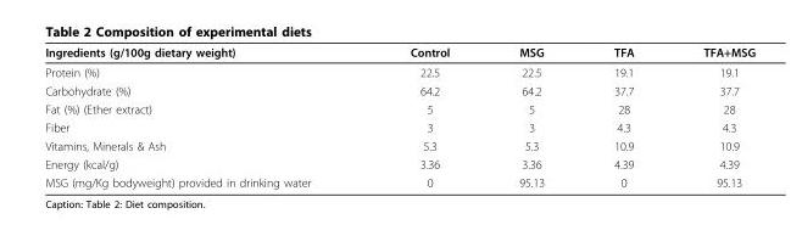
<table><thead><tr><td>Ingredients (g/100g dietary weight)</td><td>Control</td><td>MSG</td><td>TFA</td><td>TFA+MSG</td></tr></thead><tbody><tr><td>Protein (%)</td><td>22.5</td><td>22.5</td><td>19.1</td><td>19.1</td></tr><tr><td>Carbohydrate (%)</td><td>64.2</td><td>64.2</td><td>37.7</td><td>37.7</td></tr><tr><td>Fat (%) (Ether extract)</td><td>5</td><td>5</td><td>28</td><td>28</td></tr><tr><td>Fiber</td><td>3</td><td>3</td><td>4.3</td><td>4.3</td></tr><tr><td>Vitamins, Minerals &amp; Ash</td><td>5.3</td><td>5.3</td><td>10.9</td><td>10.9</td></tr><tr><td>Energy (kcal/g)</td><td>3.36</td><td>3.36</td><td>4.39</td><td>4.39</td></tr><tr><td>MSG (mg/Kg bodyweight) provided in drinking water</td><td>0</td><td>95.13</td><td>0</td><td>95.13</td></tr></tbody></table>